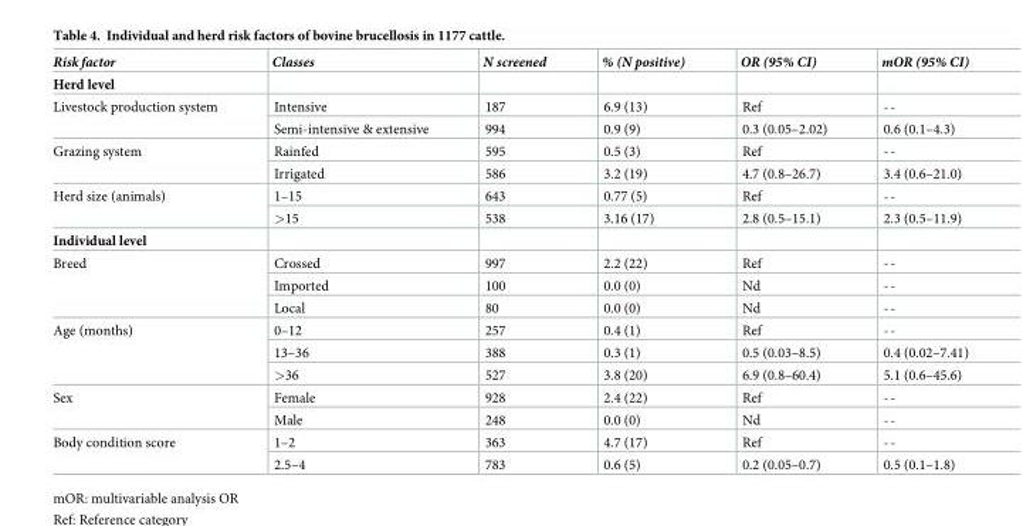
<table><thead><tr><td>Risk factor</td><td>Classes</td><td>N screened</td><td>% (N positive)</td><td>OR (95% CI)</td><td>mOR (95% CI)</td></tr></thead><tbody><tr><td colspan="6">Herd level</td></tr><tr><td rowspan="2">Livestock production system</td><td>Intensive</td><td>187</td><td>6.9 (13)</td><td>Ref</td><td>--</td></tr><tr><td>Semi-intensive &amp; extensive</td><td>994</td><td>0.9 (9)</td><td>0.3 (0.05–2.02)</td><td>0.6 (0.1–4.3)</td></tr><tr><td rowspan="2">Grazing system</td><td>Rainfed</td><td>595</td><td>0.5 (3)</td><td>Ref</td><td>--</td></tr><tr><td>Irrigated</td><td>586</td><td>3.2 (19)</td><td>4.7 (0.8–26.7)</td><td>3.4 (0.6–21.0)</td></tr><tr><td rowspan="2">Herd size (animals)</td><td>1–15</td><td>643</td><td>0.77 (5)</td><td>Ref</td><td>--</td></tr><tr><td>&gt;15</td><td>538</td><td>3.16 (17)</td><td>2.8 (0.5–15.1)</td><td>2.3 (0.5–11.9)</td></tr><tr><td colspan="6">Individual level</td></tr><tr><td rowspan="3">Breed</td><td>Crossed</td><td>997</td><td>2.2 (22)</td><td>Ref</td><td>--</td></tr><tr><td>Imported</td><td>100</td><td>0.0 (0)</td><td>Nd</td><td>--</td></tr><tr><td>Local</td><td>80</td><td>0.0 (0)</td><td>Nd</td><td>--</td></tr><tr><td rowspan="3">Age (months)</td><td>0–12</td><td>257</td><td>0.4 (1)</td><td>Ref</td><td>--</td></tr><tr><td>13–36</td><td>388</td><td>0.3 (1)</td><td>0.5 (0.03–8.5)</td><td>0.4 (0.02–7.41)</td></tr><tr><td>&gt;36</td><td>527</td><td>3.8 (20)</td><td>6.9 (0.8–60.4)</td><td>5.1 (0.6–45.6)</td></tr><tr><td rowspan="2">Sex</td><td>Female</td><td>928</td><td>2.4 (22)</td><td>Ref</td><td>--</td></tr><tr><td>Male</td><td>248</td><td>0.0 (0)</td><td>Nd</td><td>--</td></tr><tr><td rowspan="2">Body condition score</td><td>1–2</td><td>363</td><td>4.7 (17)</td><td>Ref</td><td>--</td></tr><tr><td>2.5–4</td><td>783</td><td>0.6 (5)</td><td>0.2 (0.05–0.7)</td><td>0.5 (0.1–1.8)</td></tr></tbody></table>